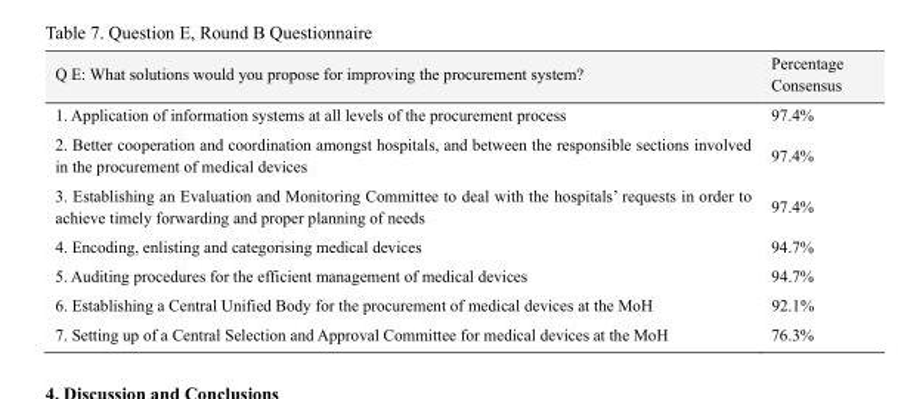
<table><thead><tr><td>Q E: What solutions would you propose for improving the procurement system?</td><td>Percentage Consensus</td></tr></thead><tbody><tr><td>1. Application of information systems at all levels of the procurement process</td><td>97.4%</td></tr><tr><td>2. Better cooperation and coordination amongst hospitals, and between the responsible sections involved in the procurement of medical devices</td><td>97.4%</td></tr><tr><td>3. Establishing an Evaluation and Monitoring Committee to deal with the hospitals’ requests in order to achieve timely forwarding and proper planning of needs</td><td>97.4%</td></tr><tr><td>4. Encoding, enlisting and categorising medical devices</td><td>94.7%</td></tr><tr><td>5. Auditing procedures for the efficient management of medical devices</td><td>94.7%</td></tr><tr><td>6. Establishing a Central Unified Body for the procurement of medical devices at the MoH</td><td>92.1%</td></tr><tr><td>7. Setting up of a Central Selection and Approval Committee for medical devices at the MoH</td><td>76.3%</td></tr></tbody></table>